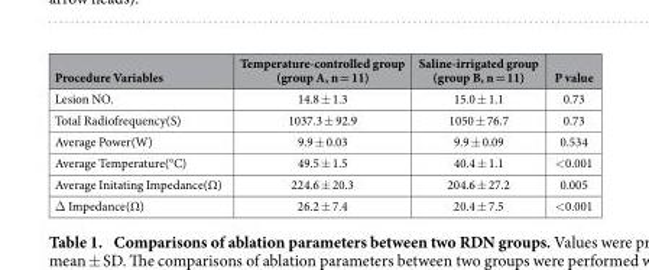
<table><thead><tr><td>Procedure Variables</td><td>Temperature-controlled group (group A, n = 11)</td><td>Saline-irrigated group (group B, n = 11)</td><td>P value</td></tr></thead><tbody><tr><td>Lesion NO.</td><td>14.8 ± 1.3</td><td>15.0 ± 1.1</td><td>0.73</td></tr><tr><td>Total Radiofrequency(S)</td><td>1037.3 ± 92.9</td><td>1050 ± 76.7</td><td>0.73</td></tr><tr><td>Average Power(W)</td><td>9.9 ± 0.03</td><td>9.9 ± 0.09</td><td>0.534</td></tr><tr><td>Average Temperature(°C)</td><td>49.5 ± 1.5</td><td>40.4 ± 1.1</td><td>&lt; 0.001</td></tr><tr><td>Average Initating Impedance(Ω)</td><td>224.6 ± 20.3</td><td>204.6 ± 27.2</td><td>0.005</td></tr><tr><td>Δ Impedance(Ω)</td><td>26.2 ± 7.4</td><td>20.4 ± 7.5</td><td>&lt; 0.001</td></tr></tbody></table>